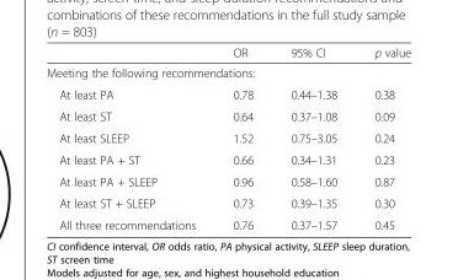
<table><thead><tr><td></td><td>OR</td><td>95% CI</td><td>p value</td></tr></thead><tbody><tr><td colspan="4">Meeting the following recommendations:</td></tr><tr><td>At least PA</td><td>0.78</td><td>0.44–1.38</td><td>0.38</td></tr><tr><td>At least ST</td><td>0.64</td><td>0.37–1.08</td><td>0.09</td></tr><tr><td>At least SLEEP</td><td>1.52</td><td>0.75–3.05</td><td>0.24</td></tr><tr><td>At least PA + ST</td><td>0.66</td><td>0.34–1.31</td><td>0.23</td></tr><tr><td>At least PA + SLEEP</td><td>0.96</td><td>0.58–1.60</td><td>0.87</td></tr><tr><td>At least ST + SLEEP</td><td>0.73</td><td>0.39–1.35</td><td>0.30</td></tr><tr><td>All three recommendations</td><td>0.76</td><td>0.37–1.57</td><td>0.45</td></tr></tbody></table>